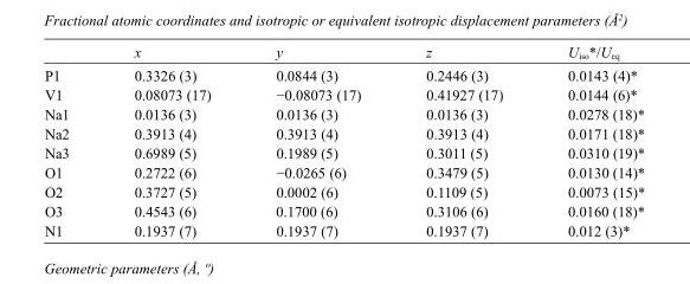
<table><thead><tr><td></td><td>x</td><td>y</td><td>z</td><td>U<sub>iso</sub>*/U<sub>eq</sub></td></tr></thead><tbody><tr><td>P1</td><td>0.3326 (3)</td><td>0.0844 (3)</td><td>0.2446 (3)</td><td>0.0143 (4)*</td></tr><tr><td>V1</td><td>0.08073 (17)</td><td>−0.08073 (17)</td><td>0.41927 (17)</td><td>0.0144 (6)*</td></tr><tr><td>Na1</td><td>0.0136 (3)</td><td>0.0136 (3)</td><td>0.0136 (3)</td><td>0.0278 (18)*</td></tr><tr><td>Na2</td><td>0.3913 (4)</td><td>0.3913 (4)</td><td>0.3913 (4)</td><td>0.0171 (18)*</td></tr><tr><td>Na3</td><td>0.6989 (5)</td><td>0.1989 (5)</td><td>0.3011 (5)</td><td>0.0310 (19)*</td></tr><tr><td>O1</td><td>0.2722 (6)</td><td>−0.0265 (6)</td><td>0.3479 (5)</td><td>0.0130 (14)*</td></tr><tr><td>O2</td><td>0.3727 (5)</td><td>0.0002 (6)</td><td>0.1109 (5)</td><td>0.0073 (15)*</td></tr><tr><td>O3</td><td>0.4543 (6)</td><td>0.1700 (6)</td><td>0.3106 (6)</td><td>0.0160 (18)*</td></tr><tr><td>N1</td><td>0.1937 (7)</td><td>0.1937 (7)</td><td>0.1937 (7)</td><td>0.012 (3)*</td></tr></tbody></table>